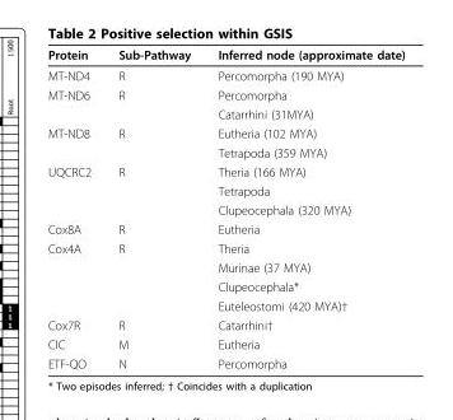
<table><thead><tr><td>Protein</td><td>Sub-Pathway</td><td>Inferred node (approximate date)</td></tr></thead><tbody><tr><td>MT-ND4</td><td>R</td><td>Percomorpha (190 MYA)</td></tr><tr><td rowspan="2">MT-ND6</td><td>R</td><td>Percomorpha</td></tr><tr><td></td><td>Catarrhini (31MYA)</td></tr><tr><td rowspan="2">MT-ND8</td><td>R</td><td>Eutheria (102 MYA)</td></tr><tr><td></td><td>Tetrapoda (359 MYA)</td></tr><tr><td rowspan="3">UQCRC2</td><td>R</td><td>Theria (166 MYA)</td></tr><tr><td></td><td>Tetrapoda</td></tr><tr><td></td><td>Clupeocephala (320 MYA)</td></tr><tr><td>Cox8A</td><td>R</td><td>Eutheria</td></tr><tr><td rowspan="4">Cox4A</td><td>R</td><td>Theria</td></tr><tr><td></td><td>Murinae (37 MYA)</td></tr><tr><td></td><td>Clupeocephala*</td></tr><tr><td></td><td>Euteleostomi (420 MYA)†</td></tr><tr><td>Cox7R</td><td>R</td><td>Catarrhini†</td></tr><tr><td>CIC</td><td>M</td><td>Eutheria</td></tr><tr><td>ETF-QO</td><td>N</td><td>Percomorpha</td></tr></tbody></table>